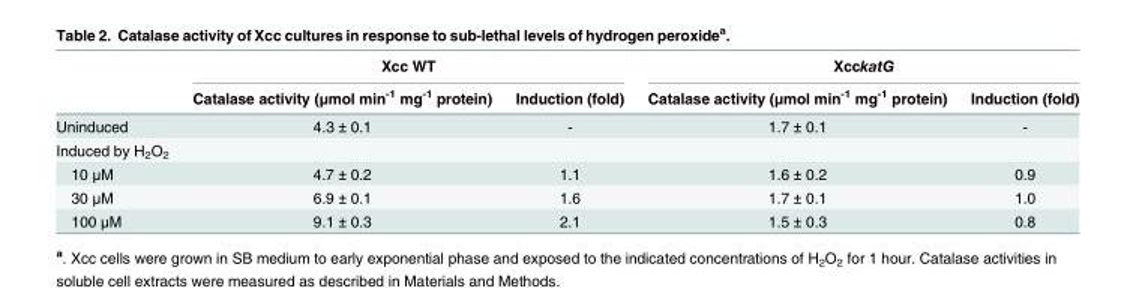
<table><thead><tr><td rowspan="2"></td><td colspan="2">Xcc WT</td><td colspan="2">XcckatG</td></tr><tr><td>Catalase activity (μmol min<sup>-1</sup> mg<sup>-1</sup> protein)</td><td>Induction (fold)</td><td>Catalase activity (μmol min<sup>-1</sup> mg<sup>-1</sup> protein)</td><td>Induction (fold)</td></tr></thead><tbody><tr><td>Uninduced</td><td>4.3 ± 0.1</td><td>-</td><td>1.7 ± 0.1</td><td>-</td></tr><tr><td colspan="5">Induced by H<sub>2</sub>O<sub>2</sub></td></tr><tr><td>10 μM</td><td>4.7 ± 0.2</td><td>1.1</td><td>1.6 ± 0.2</td><td>0.9</td></tr><tr><td>30 μM</td><td>6.9 ± 0.1</td><td>1.6</td><td>1.7 ± 0.1</td><td>1.0</td></tr><tr><td>100 μM</td><td>9.1 ± 0.3</td><td>2.1</td><td>1.5 ± 0.3</td><td>0.8</td></tr></tbody></table>